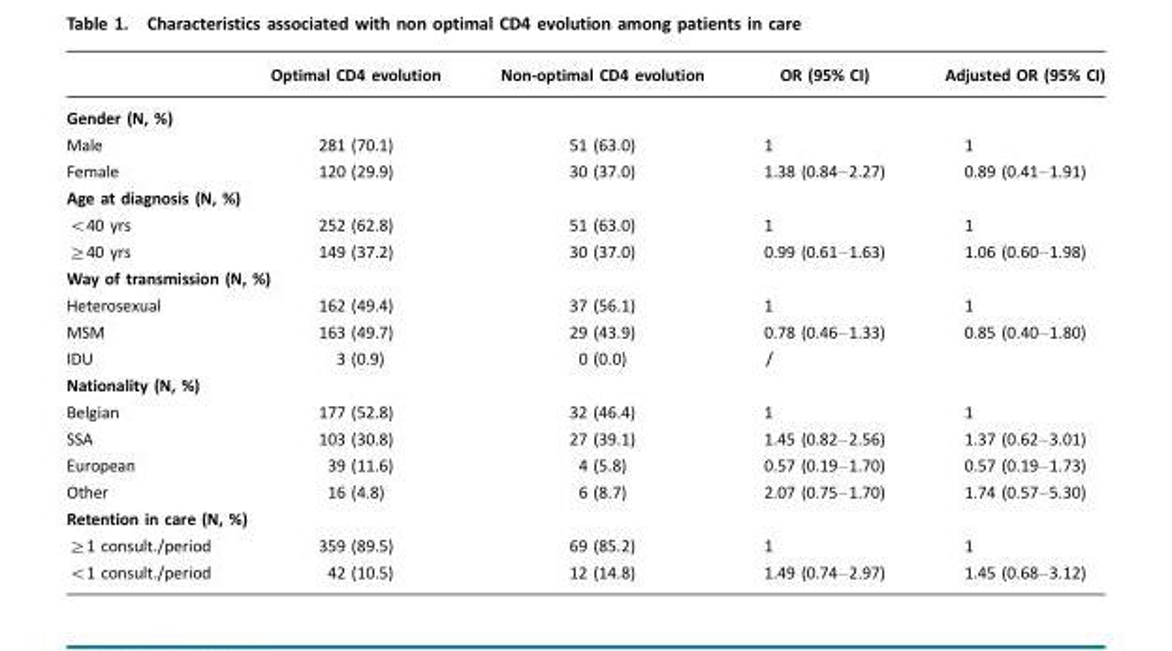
<table><thead><tr><td></td><td>Optimal CD4 evolution</td><td>Non-optimal CD4 evolution</td><td>OR (95% CI)</td><td>Adjusted OR (95% CI)</td></tr></thead><tbody><tr><td colspan="5">Gender (N, %)</td></tr><tr><td>Male</td><td>281 (70.1)</td><td>51 (63.0)</td><td>1</td><td>1</td></tr><tr><td>Female</td><td>120 (29.9)</td><td>30 (37.0)</td><td>1.38 (0.84–2.27)</td><td>0.89 (0.41–1.91)</td></tr><tr><td colspan="5">Age at diagnosis (N, %)</td></tr><tr><td>&lt;40 yrs</td><td>252 (62.8)</td><td>51 (63.0)</td><td>1</td><td>1</td></tr><tr><td>≥40 yrs</td><td>149 (37.2)</td><td>30 (37.0)</td><td>0.99 (0.61–1.63)</td><td>1.06 (0.60–1.98)</td></tr><tr><td colspan="5">Way of transmission (N, %)</td></tr><tr><td>Heterosexual</td><td>162 (49.4)</td><td>37 (56.1)</td><td>1</td><td>1</td></tr><tr><td>MSM</td><td>163 (49.7)</td><td>29 (43.9)</td><td>0.78 (0.46–1.33)</td><td>0.85 (0.40–1.80)</td></tr><tr><td>IDU</td><td>3 (0.9)</td><td>0 (0.0)</td><td>/</td><td></td></tr><tr><td colspan="5">Nationality (N, %)</td></tr><tr><td>Belgian</td><td>177 (52.8)</td><td>32 (46.4)</td><td>1</td><td>1</td></tr><tr><td>SSA</td><td>103 (30.8)</td><td>27 (39.1)</td><td>1.45 (0.82–2.56)</td><td>1.37 (0.62–3.01)</td></tr><tr><td>European</td><td>39 (11.6)</td><td>4 (5.8)</td><td>0.57 (0.19–1.70)</td><td>0.57 (0.19–1.73)</td></tr><tr><td>Other</td><td>16 (4.8)</td><td>6 (8.7)</td><td>2.07 (0.75–1.70)</td><td>1.74 (0.57–5.30)</td></tr><tr><td colspan="5">Retention in care (N, %)</td></tr><tr><td>≥1 consult./period</td><td>359 (89.5)</td><td>69 (85.2)</td><td>1</td><td>1</td></tr><tr><td>&lt;1 consult./period</td><td>42 (10.5)</td><td>12 (14.8)</td><td>1.49 (0.74–2.97)</td><td>1.45 (0.68–3.12)</td></tr></tbody></table>